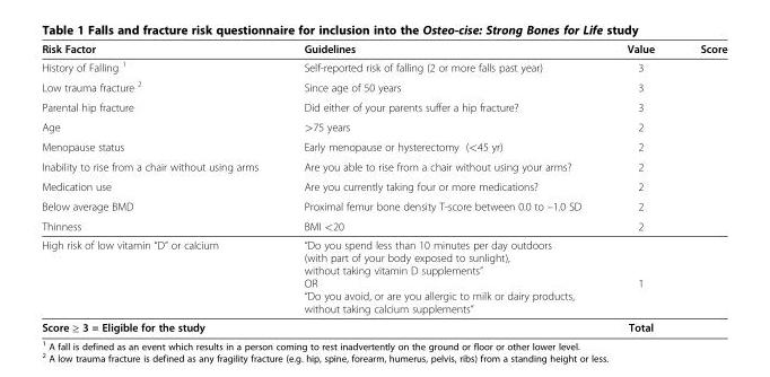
<table><thead><tr><td>Risk Factor</td><td>Guidelines</td><td>Value</td><td>Score</td></tr></thead><tbody><tr><td>History of Falling <sup>1</sup></td><td>Self-reported risk of falling (2 or more falls past year)</td><td>3</td><td></td></tr><tr><td>Low trauma fracture <sup>2</sup></td><td>Since age of 50 years</td><td>3</td><td></td></tr><tr><td>Parental hip fracture</td><td>Did either of your parents suffer a hip fracture?</td><td>3</td><td></td></tr><tr><td>Age</td><td>&gt;75 years</td><td>2</td><td></td></tr><tr><td>Menopause status</td><td>Early menopause or hysterectomy (&lt;45 yr)</td><td>2</td><td></td></tr><tr><td>Inability to rise from a chair without using arms</td><td>Are you able to rise from a chair without using your arms?</td><td>2</td><td></td></tr><tr><td>Medication use</td><td>Are you currently taking four or more medications?</td><td>2</td><td></td></tr><tr><td>Below average BMD</td><td>Proximal femur bone density T-score between 0.0 to –1.0 SD</td><td>2</td><td></td></tr><tr><td>Thinness</td><td>BMI &lt;20</td><td>2</td><td></td></tr><tr><td rowspan="3">High risk of low vitamin “D” or calcium</td><td>“Do you spend less than 10 minutes per day outdoors (with part of your body exposed to sunlight), without taking vitamin D supplements”</td><td></td><td></td></tr><tr><td>OR</td><td>1</td><td></td></tr><tr><td>“Do you avoid, or are you allergic to milk or dairy products, without taking calcium supplements”</td><td></td><td></td></tr><tr><td colspan="2">Score ≥ 3 = Eligible for the study</td><td>Total</td><td></td></tr></tbody></table>